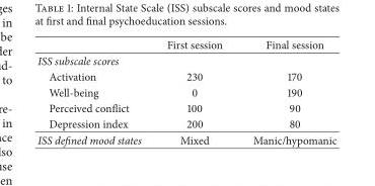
<table><thead><tr><td></td><td>First session</td><td>Final session</td></tr></thead><tbody><tr><td colspan="3">ISS subscale scores</td></tr><tr><td>Activation</td><td>230</td><td>170</td></tr><tr><td>Well-being</td><td>0</td><td>190</td></tr><tr><td>Perceived conflict</td><td>100</td><td>90</td></tr><tr><td>Depression index</td><td>200</td><td>80</td></tr><tr><td>ISS defined mood states</td><td>Mixed</td><td>Manic/hypomanic</td></tr></tbody></table>